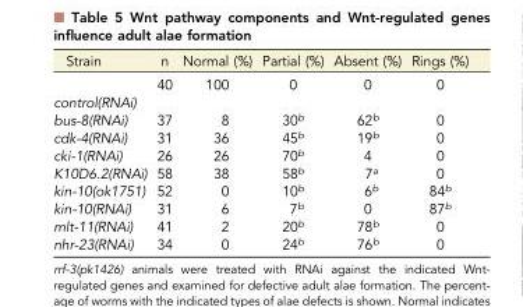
<table><thead><tr><td>Strain</td><td>n</td><td>Normal (%)</td><td>Partial (%)</td><td>Absent (%)</td><td>Rings (%)</td></tr></thead><tbody><tr><td>control(RNAi)</td><td>40</td><td>100</td><td>0</td><td>0</td><td>0</td></tr><tr><td>bus-8(RNAi)</td><td>37</td><td>8</td><td>30<sup>b</sup></td><td>62<sup>b</sup></td><td>0</td></tr><tr><td>cdk-4(RNAi)</td><td>31</td><td>36</td><td>45<sup>b</sup></td><td>19<sup>b</sup></td><td>0</td></tr><tr><td>cki-1(RNAi)</td><td>26</td><td>26</td><td>70<sup>b</sup></td><td>4</td><td>0</td></tr><tr><td>K10D6.2(RNAi)</td><td>58</td><td>38</td><td>58<sup>b</sup></td><td>7<sup>a</sup></td><td>0</td></tr><tr><td>kin-10(ok1751)</td><td>52</td><td>0</td><td>10<sup>b</sup></td><td>6<sup>b</sup></td><td>84<sup>b</sup></td></tr><tr><td>kin-10(RNAi)</td><td>31</td><td>6</td><td>7<sup>b</sup></td><td>0</td><td>87<sup>b</sup></td></tr><tr><td>mlt-11(RNAi)</td><td>41</td><td>2</td><td>20<sup>b</sup></td><td>78<sup>b</sup></td><td>0</td></tr><tr><td>nhr-23(RNAi)</td><td>34</td><td>0</td><td>24<sup>b</sup></td><td>76<sup>b</sup></td><td>0</td></tr></tbody></table>